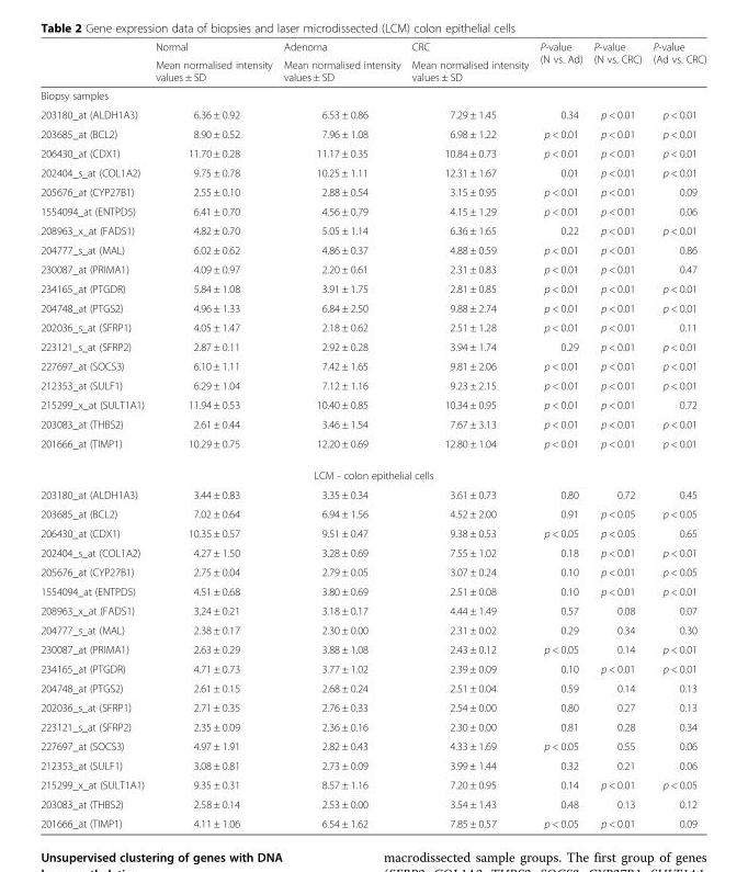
<table><thead><tr><td rowspan="2"></td><td rowspan="2">Normal Mean normalised intensity values ± SD</td><td rowspan="2">Adenoma Mean normalised intensity values ± SD</td><td rowspan="2">CRC Mean normalised intensity values ± SD</td><td rowspan="2">P-value (N vs. Ad)</td><td rowspan="2">P-value (N vs. CRC)</td><td rowspan="2">P-value (Ad vs. CRC)</td></tr><tr></tr></thead><tbody><tr><td colspan="7">Biopsy samples</td></tr><tr><td>203180_at (ALDH1A3)</td><td>6.36 ± 0.92</td><td>6.53 ± 0.86</td><td>7.29 ± 1.45</td><td>0.34</td><td>p &lt; 0.01</td><td>p &lt; 0.01</td></tr><tr><td>203685_at (BCL2)</td><td>8.90 ± 0.52</td><td>7.96 ± 1.08</td><td>6.98 ± 1.22</td><td>p &lt; 0.01</td><td>p &lt; 0.01</td><td>p &lt; 0.01</td></tr><tr><td>206430_at (CDX1)</td><td>11.70 ± 0.28</td><td>11.17 ± 0.35</td><td>10.84 ± 0.73</td><td>p &lt; 0.01</td><td>p &lt; 0.01</td><td>p &lt; 0.01</td></tr><tr><td>202404_s_at (COL1A2)</td><td>9.75 ± 0.78</td><td>10.25 ± 1.11</td><td>12.31 ± 1.67</td><td>0.01</td><td>p &lt; 0.01</td><td>p &lt; 0.01</td></tr><tr><td>205676_at (CYP27B1)</td><td>2.55 ± 0.10</td><td>2.88 ± 0.54</td><td>3.15 ± 0.95</td><td>p &lt; 0.01</td><td>p &lt; 0.01</td><td>0.09</td></tr><tr><td>1554094_at (ENTPD5)</td><td>6.41 ± 0.70</td><td>4.56 ± 0.79</td><td>4.15 ± 1.29</td><td>p &lt; 0.01</td><td>p &lt; 0.01</td><td>0.06</td></tr><tr><td>208963_x_at (FADS1)</td><td>4.82 ± 0.70</td><td>5.05 ± 1.14</td><td>6.36 ± 1.65</td><td>0.22</td><td>p &lt; 0.01</td><td>p &lt; 0.01</td></tr><tr><td>204777_s_at (MAL)</td><td>6.02 ± 0.62</td><td>4.86 ± 0.37</td><td>4.88 ± 0.59</td><td>p &lt; 0.01</td><td>p &lt; 0.01</td><td>0.86</td></tr><tr><td>230087_at (PRIMA1)</td><td>4.09 ± 0.97</td><td>2.20 ± 0.61</td><td>2.31 ± 0.83</td><td>p &lt; 0.01</td><td>p &lt; 0.01</td><td>0.47</td></tr><tr><td>234165_at (PTGDR)</td><td>5.84 ± 1.08</td><td>3.91 ± 1.75</td><td>2.81 ± 0.85</td><td>p &lt; 0.01</td><td>p &lt; 0.01</td><td>p &lt; 0.01</td></tr><tr><td>204748_at (PTGS2)</td><td>4.96 ± 1.33</td><td>6.84 ± 2.50</td><td>9.88 ± 2.74</td><td>p &lt; 0.01</td><td>p &lt; 0.01</td><td>p &lt; 0.01</td></tr><tr><td>202036_s_at (SFRP1)</td><td>4.05 ± 1.47</td><td>2.18 ± 0.62</td><td>2.51 ± 1.28</td><td>p &lt; 0.01</td><td>p &lt; 0.01</td><td>0.11</td></tr><tr><td>223121_s_at (SFRP2)</td><td>2.87 ± 0.11</td><td>2.92 ± 0.28</td><td>3.94 ± 1.74</td><td>0.29</td><td>p &lt; 0.01</td><td>p &lt; 0.01</td></tr><tr><td>227697_at (SOCS3)</td><td>6.10 ± 1.11</td><td>7.42 ± 1.65</td><td>9.81 ± 2.06</td><td>p &lt; 0.01</td><td>p &lt; 0.01</td><td>p &lt; 0.01</td></tr><tr><td>212353_at (SULF1)</td><td>6.29 ± 1.04</td><td>7.12 ± 1.16</td><td>9.23 ± 2.15</td><td>p &lt; 0.01</td><td>p &lt; 0.01</td><td>p &lt; 0.01</td></tr><tr><td>215299_x_at (SULT1A1)</td><td>11.94 ± 0.53</td><td>10.40 ± 0.85</td><td>10.34 ± 0.95</td><td>p &lt; 0.01</td><td>p &lt; 0.01</td><td>0.72</td></tr><tr><td>203083_at (THBS2)</td><td>2.61 ± 0.44</td><td>3.46 ± 1.54</td><td>7.67 ± 3.13</td><td>p &lt; 0.01</td><td>p &lt; 0.01</td><td>p &lt; 0.01</td></tr><tr><td>201666_at (TIMP1)</td><td>10.29 ± 0.75</td><td>12.20 ± 0.69</td><td>12.80 ± 1.04</td><td>p &lt; 0.01</td><td>p &lt; 0.01</td><td>p &lt; 0.01</td></tr><tr><td colspan="7">LCM - colon epithelial cells</td></tr><tr><td>203180_at (ALDH1A3)</td><td>3.44 ± 0.83</td><td>3.35 ± 0.34</td><td>3.61 ± 0.73</td><td>0.80</td><td>0.72</td><td>0.45</td></tr><tr><td>203685_at (BCL2)</td><td>7.02 ± 0.64</td><td>6.94 ± 1.56</td><td>4.52 ± 2.00</td><td>0.91</td><td>p &lt; 0.05</td><td>p &lt; 0.05</td></tr><tr><td>206430_at (CDX1)</td><td>10.35 ± 0.57</td><td>9.51 ± 0.47</td><td>9.38 ± 0.53</td><td>p &lt; 0.05</td><td>p &lt; 0.05</td><td>0.65</td></tr><tr><td>202404_s_at (COL1A2)</td><td>4.27 ± 1.50</td><td>3.28 ± 0.69</td><td>7.55 ± 1.02</td><td>0.18</td><td>p &lt; 0.01</td><td>p &lt; 0.01</td></tr><tr><td>205676_at (CYP27B1)</td><td>2.75 ± 0.04</td><td>2.79 ± 0.05</td><td>3.07 ± 0.24</td><td>0.10</td><td>p &lt; 0.01</td><td>p &lt; 0.05</td></tr><tr><td>1554094_at (ENTPD5)</td><td>4.51 ± 0.68</td><td>3.80 ± 0.69</td><td>2.51 ± 0.08</td><td>0.10</td><td>p &lt; 0.01</td><td>p &lt; 0.01</td></tr><tr><td>208963_x_at (FADS1)</td><td>3.24 ± 0.21</td><td>3.18 ± 0.17</td><td>4.44 ± 1.49</td><td>0.57</td><td>0.08</td><td>0.07</td></tr><tr><td>204777_s_at (MAL)</td><td>2.38 ± 0.17</td><td>2.30 ± 0.00</td><td>2.31 ± 0.02</td><td>0.29</td><td>0.34</td><td>0.30</td></tr><tr><td>230087_at (PRIMA1)</td><td>2.63 ± 0.29</td><td>3.88 ± 1.08</td><td>2.43 ± 0.12</td><td>p &lt; 0.05</td><td>0.14</td><td>p &lt; 0.01</td></tr><tr><td>234165_at (PTGDR)</td><td>4.71 ± 0.73</td><td>3.77 ± 1.02</td><td>2.39 ± 0.09</td><td>0.10</td><td>p &lt; 0.01</td><td>p &lt; 0.01</td></tr><tr><td>204748_at (PTGS2)</td><td>2.61 ± 0.15</td><td>2.68 ± 0.24</td><td>2.51 ± 0.04</td><td>0.59</td><td>0.14</td><td>0.13</td></tr><tr><td>202036_s_at (SFRP1)</td><td>2.71 ± 0.35</td><td>2.76 ± 0.33</td><td>2.54 ± 0.00</td><td>0.80</td><td>0.27</td><td>0.13</td></tr><tr><td>223121_s_at (SFRP2)</td><td>2.35 ± 0.09</td><td>2.36 ± 0.16</td><td>2.30 ± 0.00</td><td>0.81</td><td>0.28</td><td>0.34</td></tr><tr><td>227697_at (SOCS3)</td><td>4.97 ± 1.91</td><td>2.82 ± 0.43</td><td>4.33 ± 1.69</td><td>p &lt; 0.05</td><td>0.55</td><td>0.06</td></tr><tr><td>212353_at (SULF1)</td><td>3.08 ± 0.81</td><td>2.73 ± 0.09</td><td>3.99 ± 1.44</td><td>0.32</td><td>0.21</td><td>0.06</td></tr><tr><td>215299_x_at (SULT1A1)</td><td>9.35 ± 0.31</td><td>8.57 ± 1.16</td><td>7.20 ± 0.95</td><td>0.14</td><td>p &lt; 0.01</td><td>p &lt; 0.05</td></tr><tr><td>203083_at (THBS2)</td><td>2.58 ± 0.14</td><td>2.53 ± 0.00</td><td>3.54 ± 1.43</td><td>0.48</td><td>0.13</td><td>0.12</td></tr><tr><td>201666_at (TIMP1)</td><td>4.11 ± 1.06</td><td>6.54 ± 1.62</td><td>7.85 ± 0.57</td><td>p &lt; 0.05</td><td>p &lt; 0.01</td><td>0.09</td></tr></tbody></table>